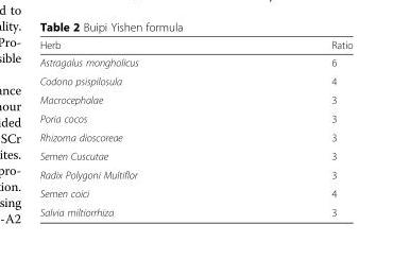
<table><thead><tr><td>Herb</td><td>Ratio</td></tr></thead><tbody><tr><td>Astragalus mongholicus</td><td>6</td></tr><tr><td>Codono psispilosula</td><td>4</td></tr><tr><td>Macrocephalae</td><td>3</td></tr><tr><td>Poria cocos</td><td>3</td></tr><tr><td>Rhizoma dioscoreae</td><td>3</td></tr><tr><td>Semen Cuscutae</td><td>3</td></tr><tr><td>Radix Polygoni Multiflor</td><td>3</td></tr><tr><td>Semen coici</td><td>4</td></tr><tr><td>Salvia miltiorrhiza</td><td>3</td></tr></tbody></table>